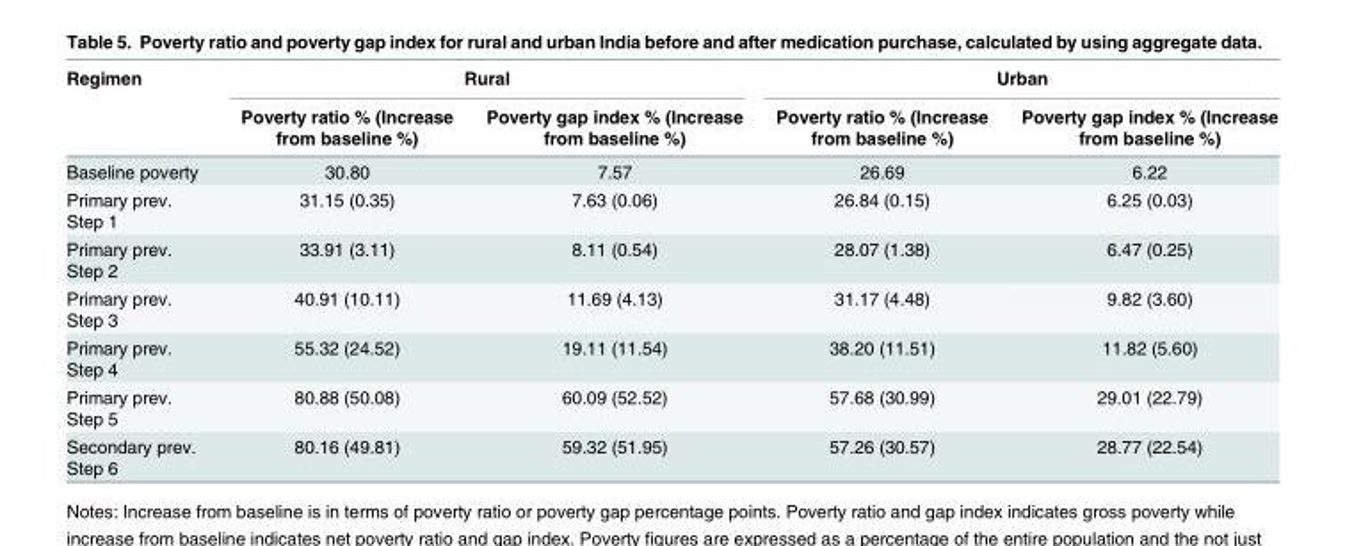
<table><thead><tr><td rowspan="2">Regimen</td><td colspan="2">Rural</td><td colspan="2">Urban</td></tr><tr><td>Poverty ratio % (Increase from baseline %)</td><td>Poverty gap index % (Increase from baseline %)</td><td>Poverty ratio % (Increase from baseline %)</td><td>Poverty gap index % (Increase from baseline %)</td></tr></thead><tbody><tr><td>Baseline poverty</td><td>30.80</td><td>7.57</td><td>26.69</td><td>6.22</td></tr><tr><td>Primary prev. Step 1</td><td>31.15 (0.35)</td><td>7.63 (0.06)</td><td>26.84 (0.15)</td><td>6.25 (0.03)</td></tr><tr><td>Primary prev. Step 2</td><td>33.91 (3.11)</td><td>8.11 (0.54)</td><td>28.07 (1.38)</td><td>6.47 (0.25)</td></tr><tr><td>Primary prev. Step 3</td><td>40.91 (10.11)</td><td>11.69 (4.13)</td><td>31.17 (4.48)</td><td>9.82 (3.60)</td></tr><tr><td>Primary prev. Step 4</td><td>55.32 (24.52)</td><td>19.11 (11.54)</td><td>38.20 (11.51)</td><td>11.82 (5.60)</td></tr><tr><td>Primary prev. Step 5</td><td>80.88 (50.08)</td><td>60.09 (52.52)</td><td>57.68 (30.99)</td><td>29.01 (22.79)</td></tr><tr><td>Secondary prev. Step 6</td><td>80.16 (49.81)</td><td>59.32 (51.95)</td><td>57.26 (30.57)</td><td>28.77 (22.54)</td></tr></tbody></table>